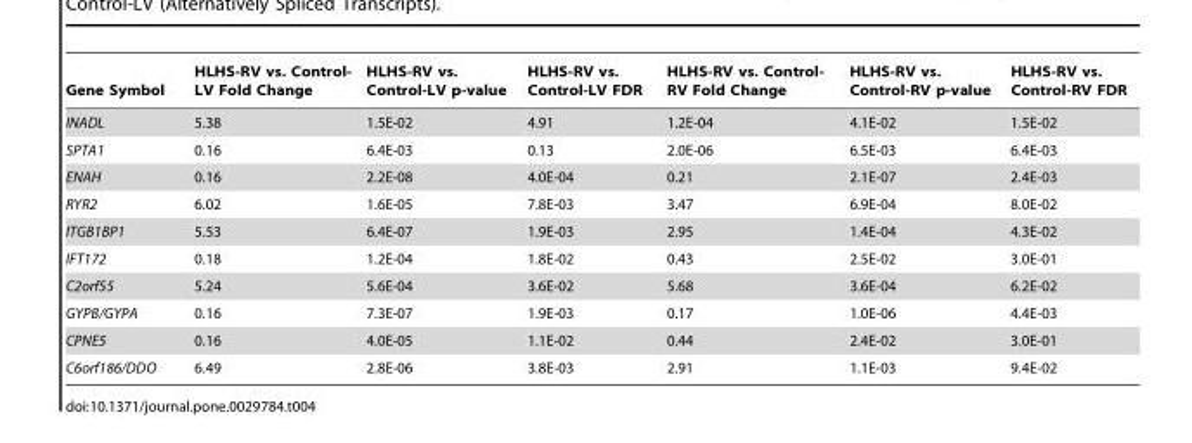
<table><thead><tr><td>Gene Symbol</td><td>HLHS-RV vs. Control- LV Fold Change</td><td>HLHS-RV vs. Control-LV p-value</td><td>HLHS-RV vs. Control-LV FDR</td><td>HLHS-RV vs. Control- RV Fold Change</td><td>HLHS-RV vs. Control-RV p-value</td><td>HLHS-RV vs. Control-RV FDR</td></tr></thead><tbody><tr><td>INADL</td><td>5.38</td><td>1.5E-02</td><td>4.91</td><td>1.2E-04</td><td>4.1E-02</td><td>1.5E-02</td></tr><tr><td>SPTA1</td><td>0.16</td><td>6.4E-03</td><td>0.13</td><td>2.0E-06</td><td>6.5E-03</td><td>6.4E-03</td></tr><tr><td>ENAH</td><td>0.16</td><td>2.2E-08</td><td>4.0E-04</td><td>0.21</td><td>2.1E-07</td><td>2.4E-03</td></tr><tr><td>RYR2</td><td>6.02</td><td>1.6E-05</td><td>7.8E-03</td><td>3.47</td><td>6.9E-04</td><td>8.0E-02</td></tr><tr><td>ITGB1BP1</td><td>5.53</td><td>6.4E-07</td><td>1.9E-03</td><td>2.95</td><td>1.4E-04</td><td>4.3E-02</td></tr><tr><td>IFT172</td><td>0.18</td><td>1.2E-04</td><td>1.8E-02</td><td>0.43</td><td>2.5E-02</td><td>3.0E-01</td></tr><tr><td>C2orf55</td><td>5.24</td><td>5.6E-04</td><td>3.6E-02</td><td>5.68</td><td>3.6E-04</td><td>6.2E-02</td></tr><tr><td>GYPB/GYPA</td><td>0.16</td><td>7.3E-07</td><td>1.9E-03</td><td>0.17</td><td>1.0E-06</td><td>4.4E-03</td></tr><tr><td>CPNE5</td><td>0.16</td><td>4.0E-05</td><td>1.1E-02</td><td>0.44</td><td>2.4E-02</td><td>3.0E-01</td></tr><tr><td>C6orf186/DDO</td><td>6.49</td><td>2.8E-06</td><td>3.8E-03</td><td>2.91</td><td>1.1E-03</td><td>9.4E-02</td></tr></tbody></table>